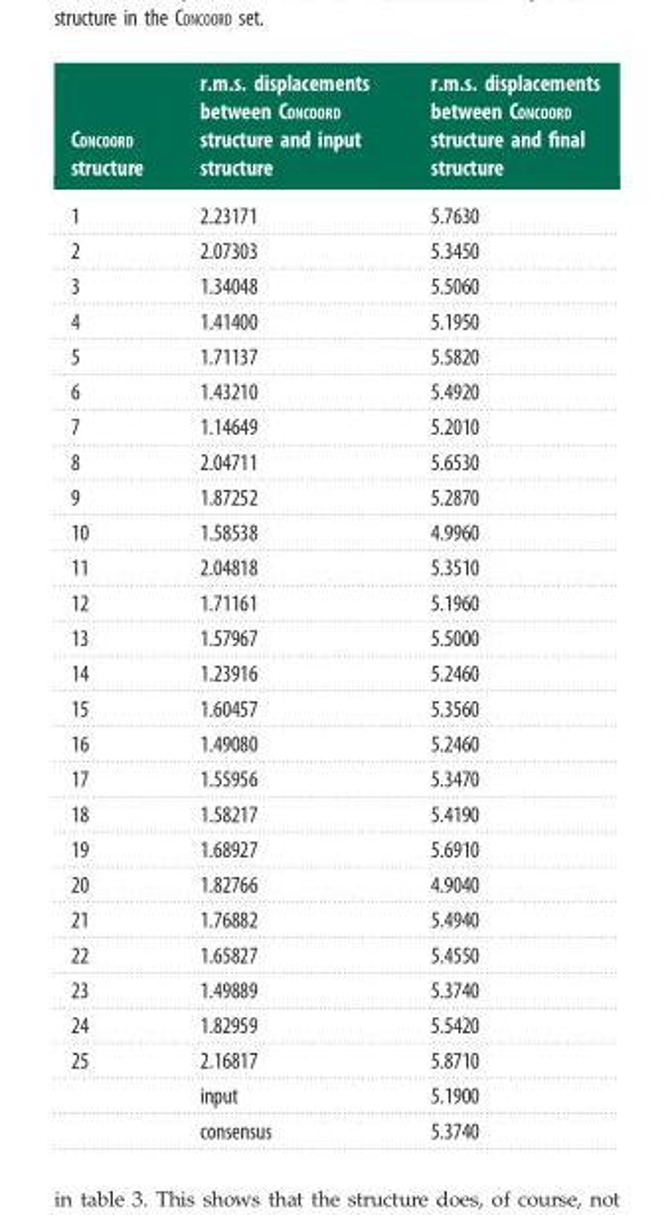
<table><thead><tr><td>CONCOORD structure</td><td>r.m.s. displacements between CONCOORD structure and input structure</td><td>r.m.s. displacements between CONCOORD structure and final structure</td></tr></thead><tbody><tr><td>1</td><td>2.23171</td><td>5.7630</td></tr><tr><td>2</td><td>2.07303</td><td>5.3450</td></tr><tr><td>3</td><td>1.34048</td><td>5.5060</td></tr><tr><td>4</td><td>1.41400</td><td>5.1950</td></tr><tr><td>5</td><td>1.71137</td><td>5.5820</td></tr><tr><td>6</td><td>1.43210</td><td>5.4920</td></tr><tr><td>7</td><td>1.14649</td><td>5.2010</td></tr><tr><td>8</td><td>2.04711</td><td>5.6530</td></tr><tr><td>9</td><td>1.87252</td><td>5.2870</td></tr><tr><td>10</td><td>1.58538</td><td>4.9960</td></tr><tr><td>11</td><td>2.04818</td><td>5.3510</td></tr><tr><td>12</td><td>1.71161</td><td>5.1960</td></tr><tr><td>13</td><td>1.57967</td><td>5.5000</td></tr><tr><td>14</td><td>1.23916</td><td>5.2460</td></tr><tr><td>15</td><td>1.60457</td><td>5.3560</td></tr><tr><td>16</td><td>1.49080</td><td>5.2460</td></tr><tr><td>17</td><td>1.55956</td><td>5.3470</td></tr><tr><td>18</td><td>1.58217</td><td>5.4190</td></tr><tr><td>19</td><td>1.68927</td><td>5.6910</td></tr><tr><td>20</td><td>1.82766</td><td>4.9040</td></tr><tr><td>21</td><td>1.76882</td><td>5.4940</td></tr><tr><td>22</td><td>1.65827</td><td>5.4550</td></tr><tr><td>23</td><td>1.49889</td><td>5.3740</td></tr><tr><td>24</td><td>1.82959</td><td>5.5420</td></tr><tr><td rowspan="3">25</td><td>2.16817</td><td>5.8710</td></tr><tr><td>input</td><td>5.1900</td></tr><tr><td>consensus</td><td>5.3740</td></tr></tbody></table>